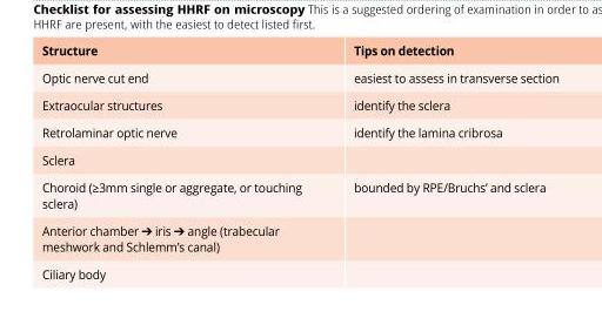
<table><thead><tr><td>Structure</td><td>Tips on detection</td></tr></thead><tbody><tr><td>Optic nerve cut end</td><td>easiest to assess in transverse section</td></tr><tr><td>Extraocular structures</td><td>identify the sclera</td></tr><tr><td>Retrolaminar optic nerve</td><td>identify the lamina cribrosa</td></tr><tr><td colspan="2">Sclera</td></tr><tr><td>Choroid (≥3mm single or aggregate, or touching sclera)</td><td>bounded by RPE/Bruchs’ and sclera</td></tr><tr><td colspan="2">Anterior chamber ➔ iris ➔ angle (trabecular meshwork and Schlemm’s canal)</td></tr><tr><td>Ciliary body</td><td></td></tr></tbody></table>